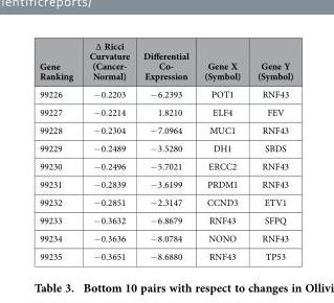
<table><thead><tr><td>Gene Ranking</td><td>∆ Ricci Curvature (Cancer- Normal)</td><td>Differential Co- Expression</td><td>Gene X (Symbol)</td><td>Gene Y (Symbol)</td></tr></thead><tbody><tr><td>99226</td><td>− 0.2203</td><td>− 6.2393</td><td>POT1</td><td>RNF43</td></tr><tr><td>99227</td><td>− 0.2214</td><td>1.8210</td><td>ELF4</td><td>FEV</td></tr><tr><td>99228</td><td>− 0.2304</td><td>− 7.0964</td><td>MUC1</td><td>RNF43</td></tr><tr><td>99229</td><td>− 0.2489</td><td>− 3.5280</td><td>DH1</td><td>SBDS</td></tr><tr><td>99230</td><td>− 0.2496</td><td>− 5.7021</td><td>ERCC2</td><td>RNF43</td></tr><tr><td>99231</td><td>− 0.2839</td><td>− 3.6199</td><td>PRDM1</td><td>RNF43</td></tr><tr><td>99232</td><td>− 0.2851</td><td>− 2.3147</td><td>CCND3</td><td>ETV1</td></tr><tr><td>99233</td><td>− 0.3632</td><td>− 6.8679</td><td>RNF43</td><td>SFPQ</td></tr><tr><td>99234</td><td>− 0.3636</td><td>− 8.0784</td><td>NONO</td><td>RNF43</td></tr><tr><td>99235</td><td>− 0.3651</td><td>− 8.6880</td><td>RNF43</td><td>TP53</td></tr></tbody></table>